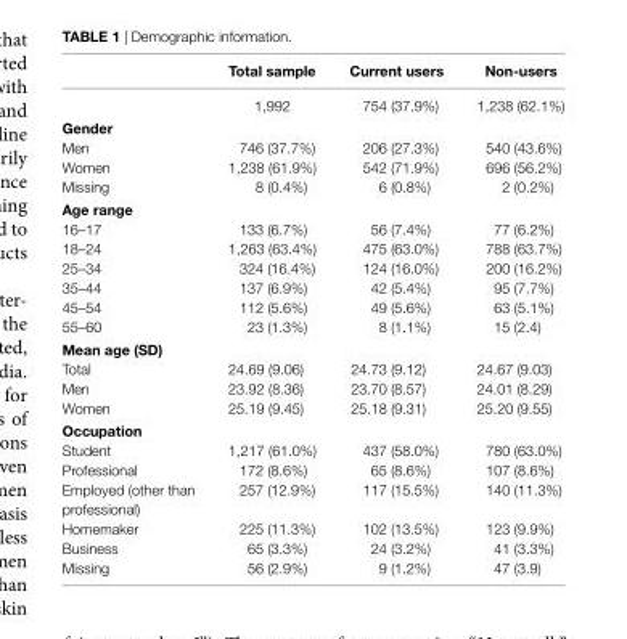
<table><thead><tr><td></td><td>Total sample</td><td>current users</td><td>non-users</td></tr></thead><tbody><tr><td></td><td>1,992</td><td>754 (37.9%)</td><td>1,238 (62.1%)</td></tr><tr><td colspan="4">gender</td></tr><tr><td>Men</td><td>746 (37.7%)</td><td>206 (27.3%)</td><td>540 (43.6%)</td></tr><tr><td>Women</td><td>1,238 (61.9%)</td><td>542 (71.9%)</td><td>696 (56.2%)</td></tr><tr><td>Missing</td><td>8 (0.4%)</td><td>6 (0.8%)</td><td>2 (0.2%)</td></tr><tr><td colspan="4">age range</td></tr><tr><td>16–17</td><td>133 (6.7%)</td><td>56 (7.4%)</td><td>77 (6.2%)</td></tr><tr><td>18–24</td><td>1,263 (63.4%)</td><td>475 (63.0%)</td><td>788 (63.7%)</td></tr><tr><td>25–34</td><td>324 (16.4%)</td><td>124 (16.0%)</td><td>200 (16.2%)</td></tr><tr><td>35–44</td><td>137 (6.9%)</td><td>42 (5.4%)</td><td>95 (7.7%)</td></tr><tr><td>45–54</td><td>112 (5.6%)</td><td>49 (5.6%)</td><td>63 (5.1%)</td></tr><tr><td>55–60</td><td>23 (1.3%)</td><td>8 (1.1%)</td><td>15 (2.4)</td></tr><tr><td colspan="4">Mean age (sD)</td></tr><tr><td>Total</td><td>24.69 (9.06)</td><td>24.73 (9.12)</td><td>24.67 (9.03)</td></tr><tr><td>Men</td><td>23.92 (8.36)</td><td>23.70 (8.57)</td><td>24.01 (8.29)</td></tr><tr><td>Women</td><td>25.19 (9.45)</td><td>25.18 (9.31)</td><td>25.20 (9.55)</td></tr><tr><td colspan="4">Occupation</td></tr><tr><td>Student</td><td>1,217 (61.0%)</td><td>437 (58.0%)</td><td>780 (63.0%)</td></tr><tr><td>Professional</td><td>172 (8.6%)</td><td>65 (8.6%)</td><td>107 (8.6%)</td></tr><tr><td>Employed (other than professional)</td><td>257 (12.9%)</td><td>117 (15.5%)</td><td>140 (11.3%)</td></tr><tr><td>Homemaker</td><td>225 (11.3%)</td><td>102 (13.5%)</td><td>123 (9.9%)</td></tr><tr><td>Business</td><td>65 (3.3%)</td><td>24 (3.2%)</td><td>41 (3.3%)</td></tr><tr><td>Missing</td><td>56 (2.9%)</td><td>9 (1.2%)</td><td>47 (3.9)</td></tr></tbody></table>